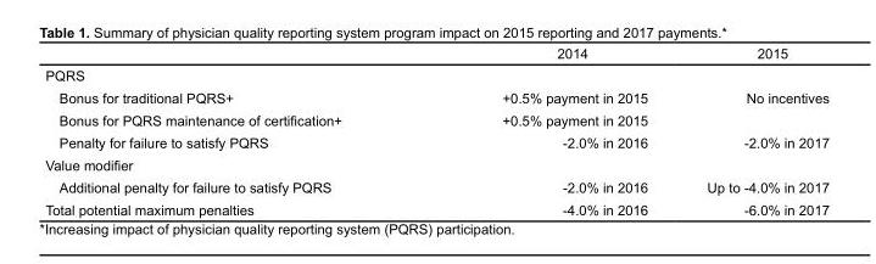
<table><thead><tr><td></td><td>2014</td><td>2015</td></tr></thead><tbody><tr><td colspan="3">PQRS</td></tr><tr><td>Bonus for traditional PQRS+</td><td>+0.5% payment in 2015</td><td>No incentives</td></tr><tr><td>Bonus for PQRS maintenance of certification+</td><td>+0.5% payment in 2015</td><td></td></tr><tr><td>Penalty for failure to satisfy PQRS</td><td>-2.0% in 2016</td><td>-2.0% in 2017</td></tr><tr><td colspan="3">Value modifier</td></tr><tr><td>Additional penalty for failure to satisfy PQRS</td><td>-2.0% in 2016</td><td>Up to -4.0% in 2017</td></tr><tr><td>Total potential maximum penalties</td><td>-4.0% in 2016</td><td>-6.0% in 2017</td></tr></tbody></table>